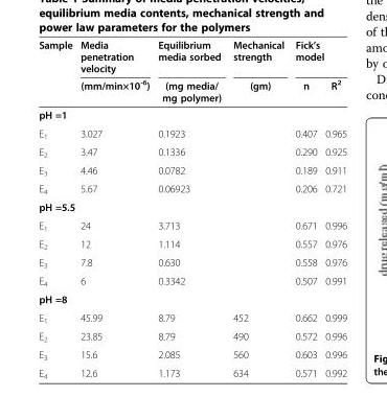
<table><thead><tr><td rowspan="2">Sample</td><td rowspan="2">Media penetration velocity (mm/min×10<sup>-6</sup>)</td><td rowspan="2">Equilibrium media sorbed (mg media/ mg polymer)</td><td rowspan="2">Mechanical strength (gm)</td><td colspan="2">Fick’s model</td></tr><tr><td>n</td><td>R<sup>2</sup></td></tr></thead><tbody><tr><td colspan="6">pH =1</td></tr><tr><td>E<sub>1</sub></td><td>3.027</td><td>0.1923</td><td></td><td>0.407</td><td>0.965</td></tr><tr><td>E<sub>2</sub></td><td>3.47</td><td>0.1336</td><td></td><td>0.290</td><td>0.925</td></tr><tr><td>E<sub>3</sub></td><td>4.46</td><td>0.0782</td><td></td><td>0.189</td><td>0.911</td></tr><tr><td>E<sub>4</sub></td><td>5.67</td><td>0.06923</td><td></td><td>0.206</td><td>0.721</td></tr><tr><td colspan="6">pH =5.5</td></tr><tr><td>E<sub>1</sub></td><td>24</td><td>3.713</td><td></td><td>0.671</td><td>0.996</td></tr><tr><td>E<sub>2</sub></td><td>12</td><td>1.114</td><td></td><td>0.557</td><td>0.976</td></tr><tr><td>E<sub>3</sub></td><td>7.8</td><td>0.630</td><td></td><td>0.558</td><td>0.976</td></tr><tr><td>E<sub>4</sub></td><td>6</td><td>0.3342</td><td></td><td>0.507</td><td>0.991</td></tr><tr><td colspan="6">pH =8</td></tr><tr><td>E<sub>1</sub></td><td>45.99</td><td>8.79</td><td>452</td><td>0.662</td><td>0.999</td></tr><tr><td>E<sub>2</sub></td><td>23.85</td><td>8.79</td><td>490</td><td>0.572</td><td>0.996</td></tr><tr><td>E<sub>3</sub></td><td>15.6</td><td>2.085</td><td>560</td><td>0.603</td><td>0.996</td></tr><tr><td>E<sub>4</sub></td><td>12.6</td><td>1.173</td><td>634</td><td>0.571</td><td>0.992</td></tr></tbody></table>